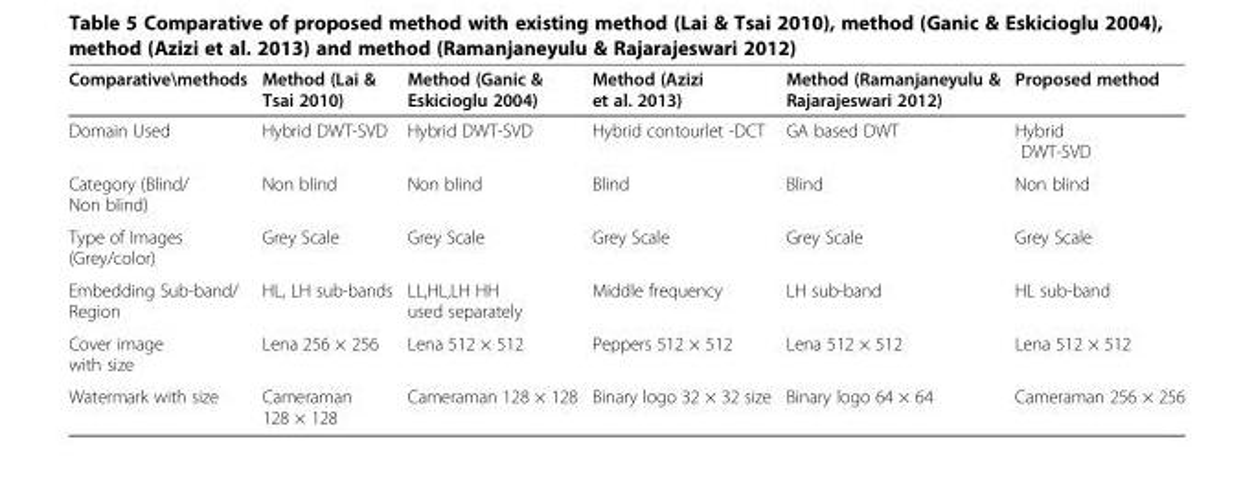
<table><thead><tr><td>Comparative\methods</td><td>Method (Lai &amp; Tsai 2010)</td><td>Method (Ganic &amp; Eskicioglu 2004)</td><td>Method (Azizi et al. 2013)</td><td>Method (Ramanjaneyulu &amp; Rajarajeswari 2012)</td><td>Proposed method</td></tr></thead><tbody><tr><td>Domain Used</td><td>Hybrid DWT-SVD</td><td>Hybrid DWT-SVD</td><td>Hybrid contourlet -DCT</td><td>GA based DWT</td><td>Hybrid DWT-SVD</td></tr><tr><td>Category (Blind/ Non blind)</td><td>Non blind</td><td>Non blind</td><td>Blind</td><td>Blind</td><td>Non blind</td></tr><tr><td>Type of Images (Grey/color)</td><td>Grey Scale</td><td>Grey Scale</td><td>Grey Scale</td><td>Grey Scale</td><td>Grey Scale</td></tr><tr><td>Embedding Sub-band/ Region</td><td>HL, LH sub-bands</td><td>LL,HL,LH HH used separately</td><td>Middle frequency</td><td>LH sub-band</td><td>HL sub-band</td></tr><tr><td>Cover image with size</td><td>Lena 256 × 256</td><td>Lena 512 × 512</td><td>Peppers 512 × 512</td><td>Lena 512 × 512</td><td>Lena 512 × 512</td></tr><tr><td>Watermark with size</td><td>Cameraman 128 × 128</td><td>Cameraman 128 × 128</td><td>Binary logo 32 × 32 size</td><td>Binary logo 64 × 64</td><td>Cameraman 256 × 256</td></tr></tbody></table>